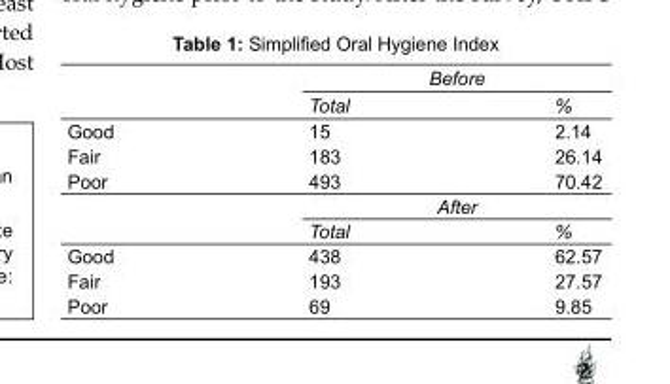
<table><thead><tr><td></td><td></td><td>Before</td><td></td></tr></thead><tbody><tr><td></td><td>Total</td><td></td><td>%</td></tr><tr><td>Good</td><td>15</td><td></td><td>2.14</td></tr><tr><td>Fair</td><td>183</td><td></td><td>26.14</td></tr><tr><td rowspan="3">Poor</td><td>493</td><td></td><td>70.42</td></tr><tr><td></td><td>After</td><td></td></tr><tr><td>Total</td><td></td><td>%</td></tr><tr><td>Good</td><td>438</td><td></td><td>62.57</td></tr><tr><td>Fair</td><td>193</td><td></td><td>27.57</td></tr><tr><td>Poor</td><td>69</td><td></td><td>9.85</td></tr></tbody></table>